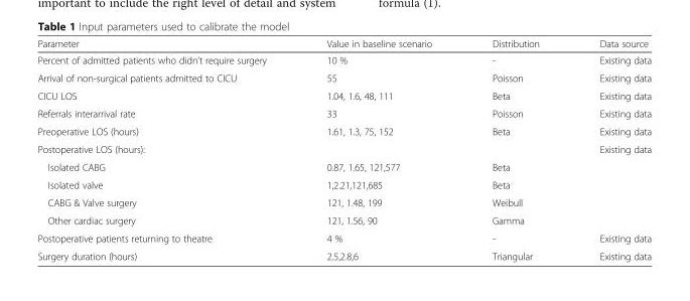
<table><thead><tr><td>Parameter</td><td>Value in baseline scenario</td><td>Distribution</td><td>Data source</td></tr></thead><tbody><tr><td>Percent of admitted patients who didn’t require surgery</td><td>10 %</td><td>-</td><td>Existing data</td></tr><tr><td>Arrival of non-surgical patients admitted to CICU</td><td>55</td><td>Poisson</td><td>Existing data</td></tr><tr><td>CICU LOS</td><td>1.04, 1.6, 48, 111</td><td>Beta</td><td>Existing data</td></tr><tr><td>Referrals interarrival rate</td><td>33</td><td>Poisson</td><td>Existing data</td></tr><tr><td>Preoperative LOS (hours)</td><td>1.61, 1.3, 75, 152</td><td>Beta</td><td>Existing data</td></tr><tr><td>Postoperative LOS (hours):</td><td></td><td></td><td>Existing data</td></tr><tr><td>Isolated CABG</td><td>0.87, 1.65, 121,577</td><td>Beta</td><td></td></tr><tr><td>Isolated valve</td><td>1,2.21,121,685</td><td>Beta</td><td></td></tr><tr><td>CABG &amp; Valve surgery</td><td>121, 1.48, 199</td><td>Weibull</td><td></td></tr><tr><td>Other cardiac surgery</td><td>121, 1.56, 90</td><td>Gamma</td><td></td></tr><tr><td>Postoperative patients returning to theatre</td><td>4 %</td><td>-</td><td>Existing data</td></tr><tr><td>Surgery duration (hours)</td><td>2.5,2.8,6</td><td>Triangular</td><td>Existing data</td></tr></tbody></table>